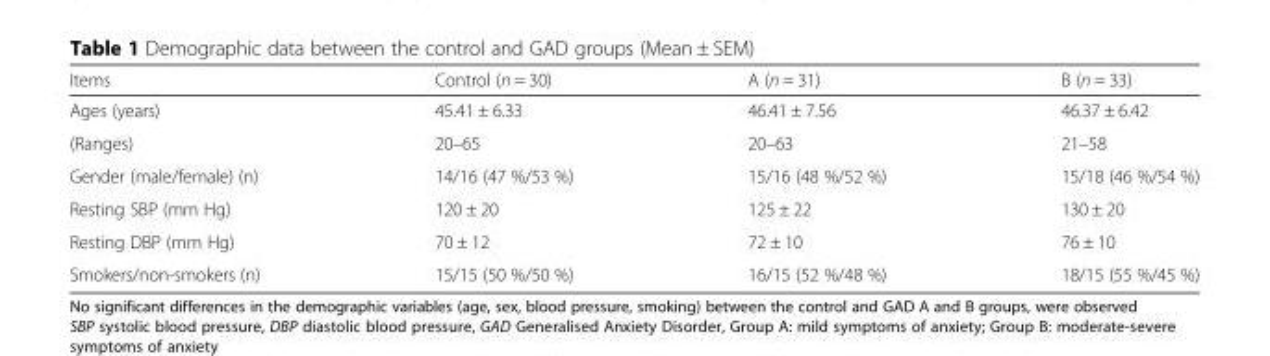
<table><thead><tr><td>Items</td><td>Control (n = 30)</td><td>A (n = 31)</td><td>B (n = 33)</td></tr></thead><tbody><tr><td>Ages (years)</td><td>45.41 ± 6.33</td><td>46.41 ± 7.56</td><td>46.37 ± 6.42</td></tr><tr><td>(Ranges)</td><td>20–65</td><td>20–63</td><td>21–58</td></tr><tr><td>Gender (male/female) (n)</td><td>14/16 (47 %/53 %)</td><td>15/16 (48 %/52 %)</td><td>15/18 (46 %/54 %)</td></tr><tr><td>Resting SBP (mm Hg)</td><td>120 ± 20</td><td>125 ± 22</td><td>130 ± 20</td></tr><tr><td>Resting DBP (mm Hg)</td><td>70 ± 12</td><td>72 ± 10</td><td>76 ± 10</td></tr><tr><td>Smokers/non-smokers (n)</td><td>15/15 (50 %/50 %)</td><td>16/15 (52 %/48 %)</td><td>18/15 (55 %/45 %)</td></tr></tbody></table>